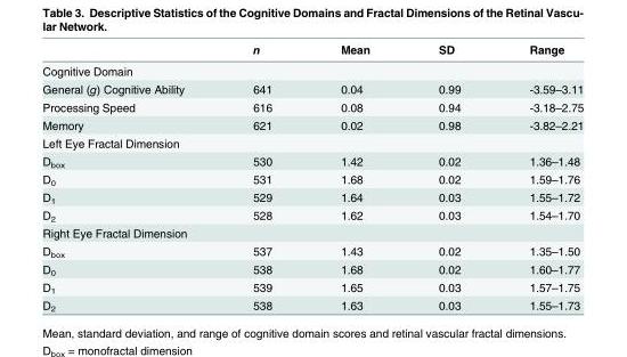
<table><thead><tr><td></td><td>n</td><td>Mean</td><td>SD</td><td>Range</td></tr></thead><tbody><tr><td colspan="5">Cognitive Domain</td></tr><tr><td>General (g) Cognitive Ability</td><td>641</td><td>0.04</td><td>0.99</td><td>-3.59–3.11</td></tr><tr><td>Processing Speed</td><td>616</td><td>0.08</td><td>0.94</td><td>-3.18–2.75</td></tr><tr><td>Memory</td><td>621</td><td>0.02</td><td>0.98</td><td>-3.82–2.21</td></tr><tr><td colspan="5">Left Eye Fractal Dimension</td></tr><tr><td>D<sub>box</sub></td><td>530</td><td>1.42</td><td>0.02</td><td>1.36–1.48</td></tr><tr><td>D<sub>0</sub></td><td>531</td><td>1.68</td><td>0.02</td><td>1.59–1.76</td></tr><tr><td>D<sub>1</sub></td><td>529</td><td>1.64</td><td>0.03</td><td>1.55–1.72</td></tr><tr><td>D<sub>2</sub></td><td>528</td><td>1.62</td><td>0.03</td><td>1.54–1.70</td></tr><tr><td colspan="5">Right Eye Fractal Dimension</td></tr><tr><td>D<sub>box</sub></td><td>537</td><td>1.43</td><td>0.02</td><td>1.35–1.50</td></tr><tr><td>D<sub>0</sub></td><td>538</td><td>1.68</td><td>0.02</td><td>1.60–1.77</td></tr><tr><td>D<sub>1</sub></td><td>539</td><td>1.65</td><td>0.03</td><td>1.57–1.75</td></tr><tr><td>D<sub>2</sub></td><td>538</td><td>1.63</td><td>0.03</td><td>1.55–1.73</td></tr></tbody></table>